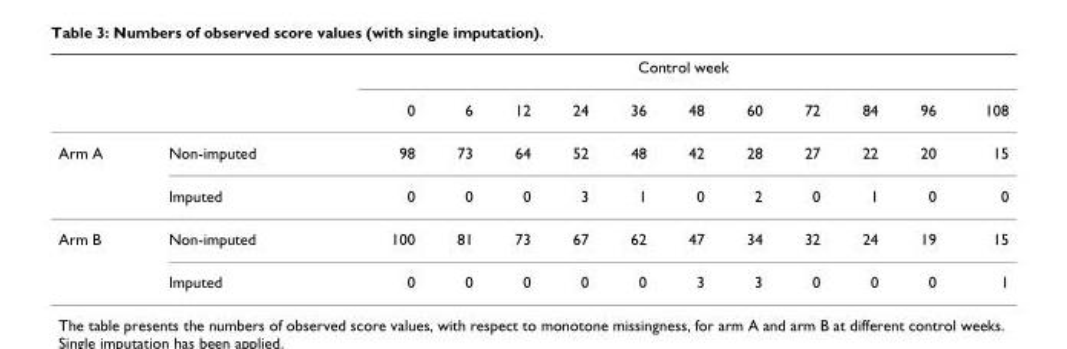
<table><thead><tr><td rowspan="2"></td><td rowspan="2"></td><td colspan="11">Control week</td></tr><tr><td>0</td><td>6</td><td>12</td><td>24</td><td>36</td><td>48</td><td>60</td><td>72</td><td>84</td><td>96</td><td>108</td></tr></thead><tbody><tr><td rowspan="2">Arm A</td><td>Non-imputed</td><td>98</td><td>73</td><td>64</td><td>52</td><td>48</td><td>42</td><td>28</td><td>27</td><td>22</td><td>20</td><td>15</td></tr><tr><td>Imputed</td><td>0</td><td>0</td><td>0</td><td>3</td><td>1</td><td>0</td><td>2</td><td>0</td><td>1</td><td>0</td><td>0</td></tr><tr><td rowspan="2">Arm B</td><td>Non-imputed</td><td>100</td><td>81</td><td>73</td><td>67</td><td>62</td><td>47</td><td>34</td><td>32</td><td>24</td><td>19</td><td>15</td></tr><tr><td>Imputed</td><td>0</td><td>0</td><td>0</td><td>0</td><td>0</td><td>3</td><td>3</td><td>0</td><td>0</td><td>0</td><td>1</td></tr></tbody></table>